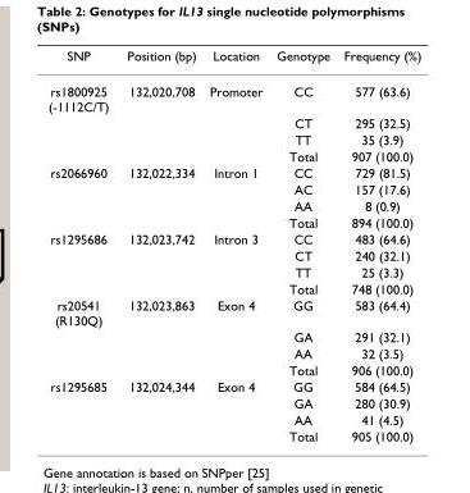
<table><thead><tr><td>SNP</td><td>Position (bp)</td><td>Location</td><td>Genotype</td><td>Frequency (%)</td></tr></thead><tbody><tr><td rowspan="4">rs1800925 (-1112C/T)</td><td>132,020,708</td><td>Promoter</td><td>CC</td><td>577 (63.6)</td></tr><tr><td></td><td></td><td>CT</td><td>295 (32.5)</td></tr><tr><td></td><td></td><td>TT</td><td>35 (3.9)</td></tr><tr><td></td><td></td><td>Total</td><td>907 (100.0)</td></tr><tr><td rowspan="4">rs2066960</td><td>132,022,334</td><td>Intron 1</td><td>CC</td><td>729 (81.5)</td></tr><tr><td></td><td></td><td>AC</td><td>157 (17.6)</td></tr><tr><td></td><td></td><td>AA</td><td>8 (0.9)</td></tr><tr><td></td><td></td><td>Total</td><td>894 (100.0)</td></tr><tr><td rowspan="4">rs1295686</td><td>132,023,742</td><td>Intron 3</td><td>CC</td><td>483 (64.6)</td></tr><tr><td></td><td></td><td>CT</td><td>240 (32.1)</td></tr><tr><td></td><td></td><td>TT</td><td>25 (3.3)</td></tr><tr><td></td><td></td><td>Total</td><td>748 (100.0)</td></tr><tr><td rowspan="4">rs20541 (R130Q)</td><td>132,023,863</td><td>Exon 4</td><td>GG</td><td>583 (64.4)</td></tr><tr><td></td><td></td><td>GA</td><td>291 (32.1)</td></tr><tr><td></td><td></td><td>AA</td><td>32 (3.5)</td></tr><tr><td></td><td></td><td>Total</td><td>906 (100.0)</td></tr><tr><td rowspan="4">rs1295685</td><td>132,024,344</td><td>Exon 4</td><td>GG</td><td>584 (64.5)</td></tr><tr><td></td><td></td><td>GA</td><td>280 (30.9)</td></tr><tr><td></td><td></td><td>AA</td><td>41 (4.5)</td></tr><tr><td></td><td></td><td>Total</td><td>905 (100.0)</td></tr></tbody></table>